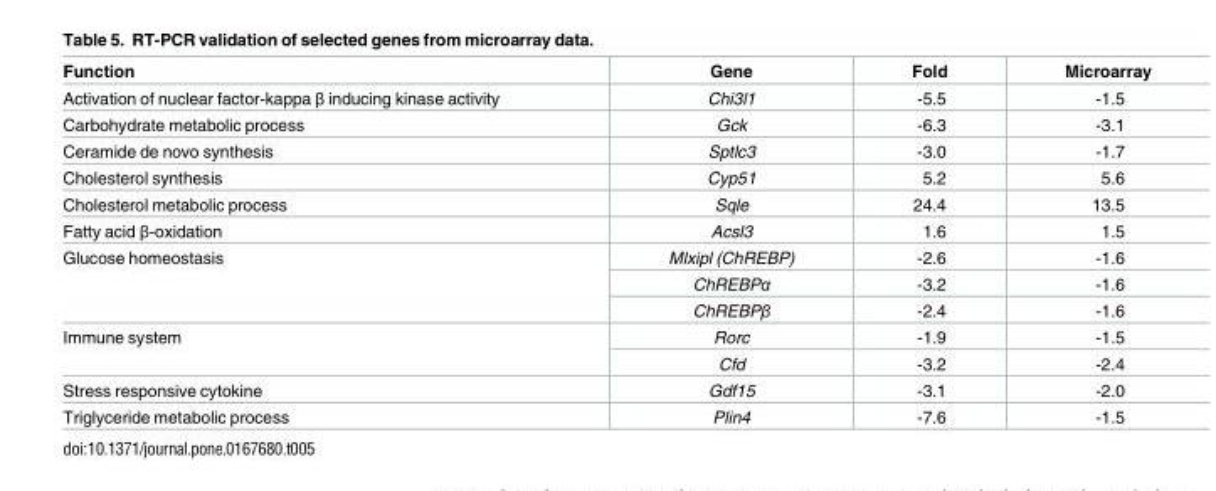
<table><thead><tr><td>Function</td><td>Gene</td><td>Fold</td><td>Microarray</td></tr></thead><tbody><tr><td>Activation of nuclear factor-kappa β inducing kinase activity</td><td>Chi3l1</td><td>-5.5</td><td>-1.5</td></tr><tr><td>Carbohydrate metabolic process</td><td>Gck</td><td>-6.3</td><td>-3.1</td></tr><tr><td>Ceramide de novo synthesis</td><td>Sptlc3</td><td>-3.0</td><td>-1.7</td></tr><tr><td>Cholesterol synthesis</td><td>Cyp51</td><td>5.2</td><td>5.6</td></tr><tr><td>Cholesterol metabolic process</td><td>Sqle</td><td>24.4</td><td>13.5</td></tr><tr><td>Fatty acid β-oxidation</td><td>Acsl3</td><td>1.6</td><td>1.5</td></tr><tr><td rowspan="3">Glucose homeostasis</td><td>Mlxipl (ChREBP)</td><td>-2.6</td><td>-1.6</td></tr><tr><td>ChREBPα</td><td>-3.2</td><td>-1.6</td></tr><tr><td>ChREBPβ</td><td>-2.4</td><td>-1.6</td></tr><tr><td rowspan="2">Immune system</td><td>Rorc</td><td>-1.9</td><td>-1.5</td></tr><tr><td>Cfd</td><td>-3.2</td><td>-2.4</td></tr><tr><td>Stress responsive cytokine</td><td>Gdf15</td><td>-3.1</td><td>-2.0</td></tr><tr><td>Triglyceride metabolic process</td><td>Plin4</td><td>-7.6</td><td>-1.5</td></tr></tbody></table>